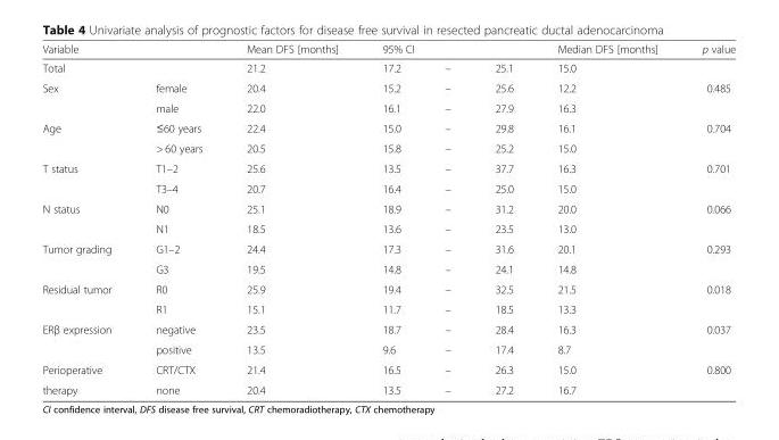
<table><thead><tr><td rowspan="2">Variable Total</td><td rowspan="2"></td><td rowspan="2">Mean DFS [months] 21.2</td><td colspan="3">95% CI</td><td rowspan="2">Median DFS [months] 15.0</td><td rowspan="2">p value</td></tr><tr><td>17.2</td><td>–</td><td>25.1</td></tr></thead><tbody><tr><td rowspan="2">Sex</td><td>female</td><td>20.4</td><td>15.2</td><td>–</td><td>25.6</td><td>12.2</td><td>0.485</td></tr><tr><td>male</td><td>22.0</td><td>16.1</td><td>–</td><td>27.9</td><td>16.3</td><td></td></tr><tr><td rowspan="2">Age</td><td>≤60 years</td><td>22.4</td><td>15.0</td><td>–</td><td>29.8</td><td>16.1</td><td>0.704</td></tr><tr><td>&gt; 60 years</td><td>20.5</td><td>15.8</td><td>–</td><td>25.2</td><td>15.0</td><td></td></tr><tr><td rowspan="2">T status</td><td>T1–2</td><td>25.6</td><td>13.5</td><td>–</td><td>37.7</td><td>16.3</td><td>0.701</td></tr><tr><td>T3–4</td><td>20.7</td><td>16.4</td><td>–</td><td>25.0</td><td>15.0</td><td></td></tr><tr><td rowspan="2">N status</td><td>N0</td><td>25.1</td><td>18.9</td><td>–</td><td>31.2</td><td>20.0</td><td>0.066</td></tr><tr><td>N1</td><td>18.5</td><td>13.6</td><td>–</td><td>23.5</td><td>13.0</td><td></td></tr><tr><td rowspan="2">Tumor grading</td><td>G1–2</td><td>24.4</td><td>17.3</td><td>–</td><td>31.6</td><td>20.1</td><td>0.293</td></tr><tr><td>G3</td><td>19.5</td><td>14.8</td><td>–</td><td>24.1</td><td>14.8</td><td></td></tr><tr><td rowspan="2">Residual tumor</td><td>R0</td><td>25.9</td><td>19.4</td><td>–</td><td>32.5</td><td>21.5</td><td>0.018</td></tr><tr><td>R1</td><td>15.1</td><td>11.7</td><td>–</td><td>18.5</td><td>13.3</td><td></td></tr><tr><td rowspan="2">ERβ expression</td><td>negative</td><td>23.5</td><td>18.7</td><td>–</td><td>28.4</td><td>16.3</td><td>0.037</td></tr><tr><td>positive</td><td>13.5</td><td>9.6</td><td>–</td><td>17.4</td><td>8.7</td><td></td></tr><tr><td>Perioperative</td><td>CRT/CTX</td><td>21.4</td><td>16.5</td><td>–</td><td>26.3</td><td>15.0</td><td>0.800</td></tr><tr><td>therapy</td><td>none</td><td>20.4</td><td>13.5</td><td>–</td><td>27.2</td><td>16.7</td><td></td></tr></tbody></table>